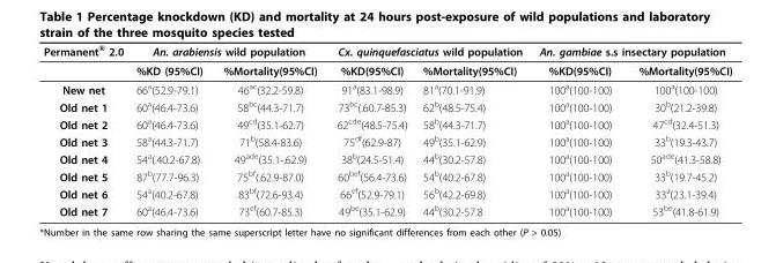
<table><thead><tr><td rowspan="2">Permanent<sup>®</sup> 2.0</td><td colspan="2">An. arabiensis wild population</td><td colspan="2">Cx. quinquefasciatus wild population</td><td colspan="2">An. gambiae s.s insectary population</td></tr><tr><td>%KD (95%CI)</td><td>%Mortality(95%CI)</td><td>%KD(95%CI)</td><td>%Mortality(95%CI)</td><td>%KD(95%CI)</td><td>%Mortality(95%CI)</td></tr></thead><tbody><tr><td>New net</td><td>66<sup>a</sup>(52.9-79.1)</td><td>46<sup>ac</sup>(32.2-59.8)</td><td>91<sup>a</sup>(83.1-98.9)</td><td>81<sup>a</sup>(70.1-91.9)</td><td>100<sup>a</sup>(100-100)</td><td>100<sup>a</sup>(100-100)</td></tr><tr><td>Old net 1</td><td>60<sup>a</sup>(46.4-73.6)</td><td>58<sup>bc</sup>(44.3-71.7)</td><td>73<sup>bc</sup>(.60.7-85.3)</td><td>62<sup>b</sup>(48.5-75.4)</td><td>100<sup>a</sup>(100-100)</td><td>30<sup>b</sup>(21.2-39.8)</td></tr><tr><td>Old net 2</td><td>60<sup>a</sup>(46.4-73.6)</td><td>49<sup>cd</sup>(35.1-62.7)</td><td>62<sup>cde</sup>(48.5-75.4)</td><td>58<sup>b</sup>(44.3-71.7)</td><td>100<sup>a</sup>(100-100)</td><td>47<sup>cd</sup>(32.4-51.3)</td></tr><tr><td>Old net 3</td><td>58<sup>a</sup>(44.3-71.7)</td><td>71<sup>b</sup>(58.4-83.6)</td><td>75<sup>df</sup>(62.9-87)</td><td>49<sup>b</sup>(35.1-62.9)</td><td>100<sup>a</sup>(100-100)</td><td>33<sup>b</sup>(19.3-43.7)</td></tr><tr><td>Old net 4</td><td>54<sup>a</sup>(.40.2-67.8)</td><td>49<sup>ade</sup>(35.1-.62.9)</td><td>38<sup>b</sup>(24.5-51.4)</td><td>44<sup>b</sup>(30.2-57.8)</td><td>100<sup>a</sup>(100-100)</td><td>50<sup>ade</sup>(41.3-58.8)</td></tr><tr><td>Old net 5</td><td>87<sup>b</sup>(77.7-96.3)</td><td>75<sup>bf</sup>(.62.9-87.0)</td><td>60<sup>bef</sup>(56.4-73.6)</td><td>54<sup>b</sup>(40.2-67.8)</td><td>100<sup>a</sup>(100-100)</td><td>33<sup>b</sup>(19.7-45.2)</td></tr><tr><td>Old net 6</td><td>54<sup>a</sup>(40.2-67.8)</td><td>83<sup>bf</sup>(72.6-93.4)</td><td>66<sup>ef</sup>(52.9-79.1)</td><td>56<sup>b</sup>(42.2-69.8)</td><td>100<sup>a</sup>(100-100)</td><td>33<sup>a</sup>(23.1-39.4)</td></tr><tr><td>Old net 7</td><td>60<sup>a</sup>(46.4-73.6)</td><td>73<sup>ef</sup>(60.7-85.3)</td><td>49<sup>be</sup>(35.1-62.9)</td><td>44<sup>b</sup>(30.2-57.8</td><td>100<sup>a</sup>(100-100)</td><td>53<sup>be</sup>(41.8-61.9)</td></tr></tbody></table>